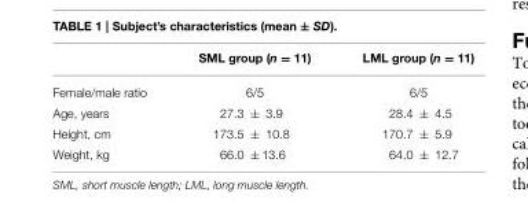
<table><thead><tr><td></td><td>SML group (n = 11)</td><td>LML group (n = 11)</td></tr></thead><tbody><tr><td>Female/male ratio</td><td>6/5</td><td>6/5</td></tr><tr><td>Age, years</td><td>27.3 ± 3.9</td><td>28.4 ± 4.5</td></tr><tr><td>Height, cm</td><td>173.5 ± 10.8</td><td>170.7 ± 5.9</td></tr><tr><td>Weight, kg</td><td>66.0 ± 13.6</td><td>64.0 ± 12.7</td></tr></tbody></table>